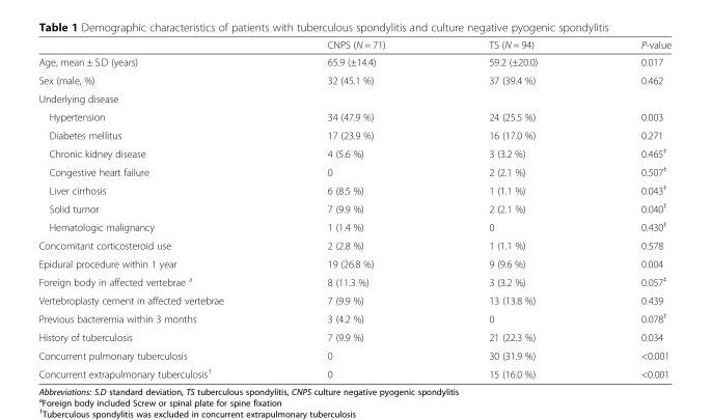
<table><thead><tr><td></td><td>CNPS (N = 71)</td><td>TS (N = 94)</td><td>P-value</td></tr></thead><tbody><tr><td>Age, mean ± S.D (years)</td><td>65.9 (±14.4)</td><td>59.2 (±20.0)</td><td>0.017</td></tr><tr><td>Sex (male, %)</td><td>32 (45.1 %)</td><td>37 (39.4 %)</td><td>0.462</td></tr><tr><td colspan="4">Underlying disease</td></tr><tr><td>Hypertension</td><td>34 (47.9 %)</td><td>24 (25.5 %)</td><td>0.003</td></tr><tr><td>Diabetes mellitus</td><td>17 (23.9 %)</td><td>16 (17.0 %)</td><td>0.271</td></tr><tr><td>Chronic kidney disease</td><td>4 (5.6 %)</td><td>3 (3.2 %)</td><td>0.465<sup>‡</sup></td></tr><tr><td>Congestive heart failure</td><td>0</td><td>2 (2.1 %)</td><td>0.507<sup>‡</sup></td></tr><tr><td>Liver cirrhosis</td><td>6 (8.5 %)</td><td>1 (1.1 %)</td><td>0.043<sup>‡</sup></td></tr><tr><td>Solid tumor</td><td>7 (9.9 %)</td><td>2 (2.1 %)</td><td>0.040<sup>‡</sup></td></tr><tr><td>Hematologic malignancy</td><td>1 (1.4 %)</td><td>0</td><td>0.430<sup>‡</sup></td></tr><tr><td>Concomitant corticosteroid use</td><td>2 (2.8 %)</td><td>1 (1.1 %)</td><td>0.578</td></tr><tr><td>Epidural procedure within 1 year</td><td>19 (26.8 %)</td><td>9 (9.6 %)</td><td>0.004</td></tr><tr><td>Foreign body in affected vertebrae <sup>a</sup></td><td>8 (11.3 %)</td><td>3 (3.2 %)</td><td>0.057<sup>‡</sup></td></tr><tr><td>Vertebroplasty cement in affected vertebrae</td><td>7 (9.9 %)</td><td>13 (13.8 %)</td><td>0.439</td></tr><tr><td>Previous bacteremia within 3 months</td><td>3 (4.2 %)</td><td>0</td><td>0.078<sup>‡</sup></td></tr><tr><td>History of tuberculosis</td><td>7 (9.9 %)</td><td>21 (22.3 %)</td><td>0.034</td></tr><tr><td>Concurrent pulmonary tuberculosis</td><td>0</td><td>30 (31.9 %)</td><td>&lt;0.001</td></tr><tr><td>Concurrent extrapulmonary tuberculosis<sup>†</sup></td><td>0</td><td>15 (16.0 %)</td><td>&lt;0.001</td></tr></tbody></table>